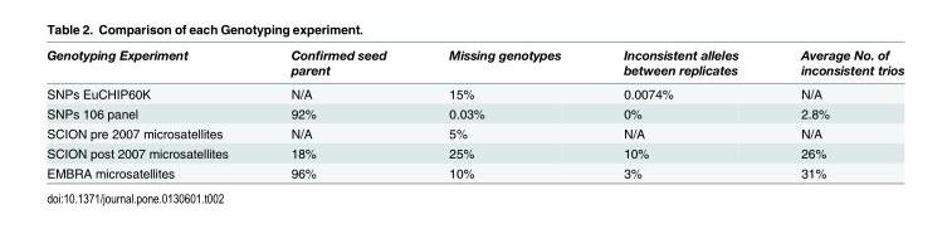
<table><thead><tr><td>Genotyping Experiment</td><td>Confirmed seed parent</td><td>Missing genotypes</td><td>Inconsistent alleles between replicates</td><td>Average No. of inconsistent trios</td></tr></thead><tbody><tr><td>SNPs EuCHIP60K</td><td>N/A</td><td>15%</td><td>0.0074%</td><td>N/A</td></tr><tr><td>SNPs 106 panel</td><td>92%</td><td>0.03%</td><td>0%</td><td>2.8%</td></tr><tr><td>SCION pre 2007 microsatellites</td><td>N/A</td><td>5%</td><td>N/A</td><td>N/A</td></tr><tr><td>SCION post 2007 microsatellites</td><td>18%</td><td>25%</td><td>10%</td><td>26%</td></tr><tr><td>EMBRA microsatellites</td><td>96%</td><td>10%</td><td>3%</td><td>31%</td></tr></tbody></table>